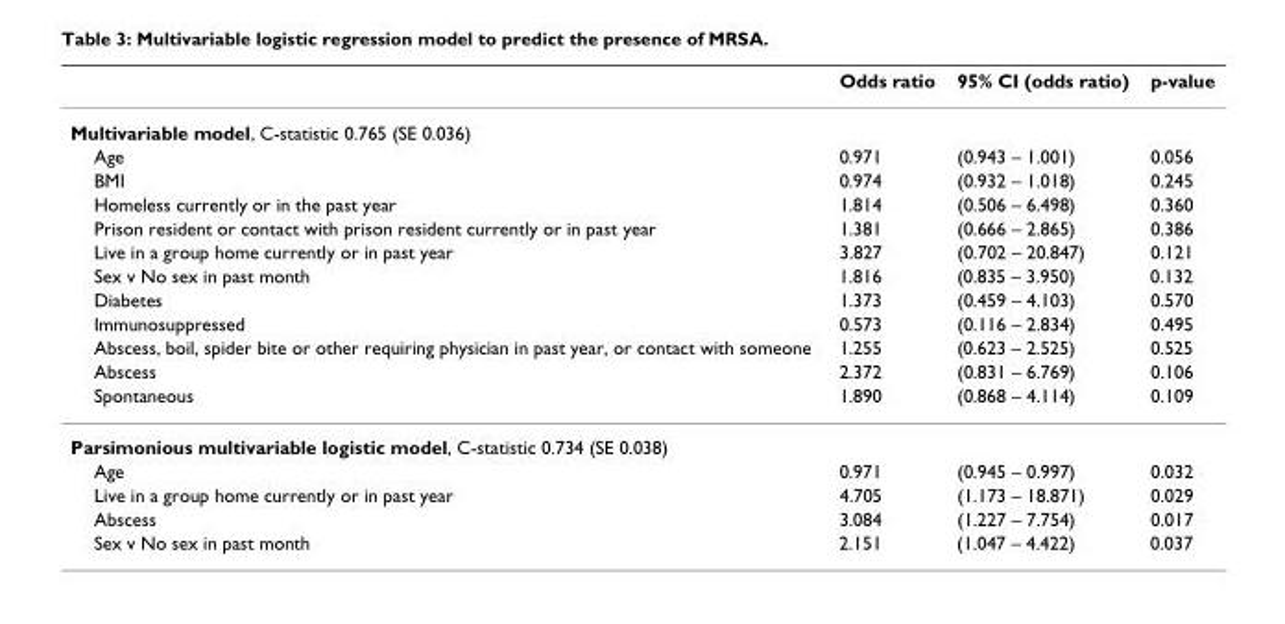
<table><thead><tr><td></td><td>Odds ratio</td><td>95% CI (odds ratio)</td><td>p-value</td></tr></thead><tbody><tr><td colspan="4">Multivariable model, C-statistic 0.765 (SE 0.036)</td></tr><tr><td>Age</td><td>0.971</td><td>(0.943 – 1.001)</td><td>0.056</td></tr><tr><td>BMI</td><td>0.974</td><td>(0.932 – 1.018)</td><td>0.245</td></tr><tr><td>Homeless currently or in the past year</td><td>1.814</td><td>(0.506 – 6.498)</td><td>0.360</td></tr><tr><td>Prison resident or contact with prison resident currently or in past year</td><td>1.381</td><td>(0.666 – 2.865)</td><td>0.386</td></tr><tr><td>Live in a group home currently or in past year</td><td>3.827</td><td>(0.702 – 20.847)</td><td>0.121</td></tr><tr><td>Sex v No sex in past month</td><td>1.816</td><td>(0.835 – 3.950)</td><td>0.132</td></tr><tr><td>Diabetes</td><td>1.373</td><td>(0.459 – 4.103)</td><td>0.570</td></tr><tr><td>Immunosuppressed</td><td>0.573</td><td>(0.116 – 2.834)</td><td>0.495</td></tr><tr><td>Abscess, boil, spider bite or other requiring physician in past year, or contact with someone</td><td>1.255</td><td>(0.623 – 2.525)</td><td>0.525</td></tr><tr><td>Abscess</td><td>2.372</td><td>(0.831 – 6.769)</td><td>0.106</td></tr><tr><td>Spontaneous</td><td>1.890</td><td>(0.868 – 4.114)</td><td>0.109</td></tr><tr><td colspan="4">Parsimonious multivariable logistic model, C-statistic 0.734 (SE 0.038)</td></tr><tr><td>Age</td><td>0.971</td><td>(0.945 – 0.997)</td><td>0.032</td></tr><tr><td>Live in a group home currently or in past year</td><td>4.705</td><td>(1.173 – 18.871)</td><td>0.029</td></tr><tr><td>Abscess</td><td>3.084</td><td>(1.227 – 7.754)</td><td>0.017</td></tr><tr><td>Sex v No sex in past month</td><td>2.151</td><td>(1.047 – 4.422)</td><td>0.037</td></tr></tbody></table>